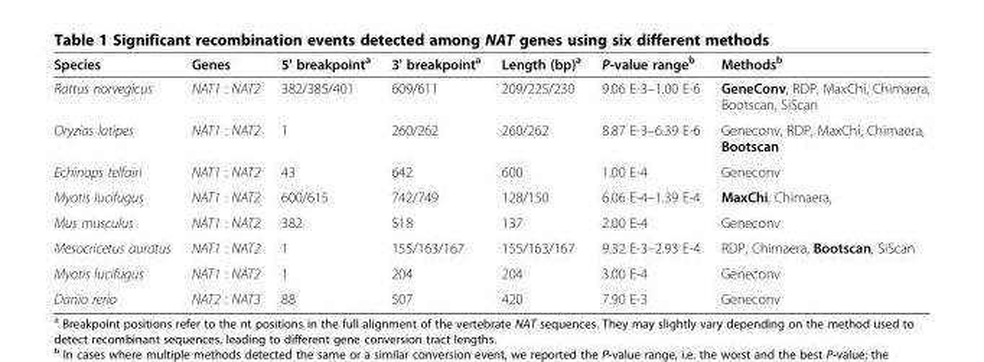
<table><thead><tr><td>Species</td><td>Genes</td><td>5&#x27; breakpoint<sup>a</sup></td><td>3&#x27; breakpoint<sup>a</sup></td><td>Length (bp)<sup>a</sup></td><td>P-value range<sup>b</sup></td><td>Methods<sup>b</sup></td></tr></thead><tbody><tr><td>Rattus norvegicus</td><td>NAT1 : NAT2</td><td>382/385/401</td><td>609/611</td><td>209/225/230</td><td>9.06 E-3–1.00 E-6</td><td>GeneConv, RDP, MaxChi, Chimaera, Bootscan, SiScan</td></tr><tr><td>Oryzias latipes</td><td>NAT1 : NAT2</td><td>1</td><td>260/262</td><td>260/262</td><td>8.87 E-3–6.39 E-6</td><td>Geneconv, RDP, MaxChi, Chimaera, Bootscan</td></tr><tr><td>Echinops telfairi</td><td>NAT1 : NAT2</td><td>43</td><td>642</td><td>600</td><td>1.00 E-4</td><td>Geneconv</td></tr><tr><td>Myotis lucifugus</td><td>NAT1 : NAT2</td><td>600/615</td><td>742/749</td><td>128/150</td><td>6.06 E-4–1.39 E-4</td><td>MaxChi, Chimaera,</td></tr><tr><td>Mus musculus</td><td>NAT1 : NAT2</td><td>382</td><td>518</td><td>137</td><td>2.00 E-4</td><td>Geneconv</td></tr><tr><td>Mesocricetus auratus</td><td>NAT1 : NAT2</td><td>1</td><td>155/163/167</td><td>155/163/167</td><td>9.32 E-3–2.93 E-4</td><td>RDP, Chimaera, Bootscan, SiScan</td></tr><tr><td>Myotis lucifugus</td><td>NAT1 : NAT2</td><td>1</td><td>204</td><td>204</td><td>3.00 E-4</td><td>Geneconv</td></tr><tr><td>Danio rerio</td><td>NAT2 : NAT3</td><td>88</td><td>507</td><td>420</td><td>7.90 E-3</td><td>Geneconv</td></tr></tbody></table>